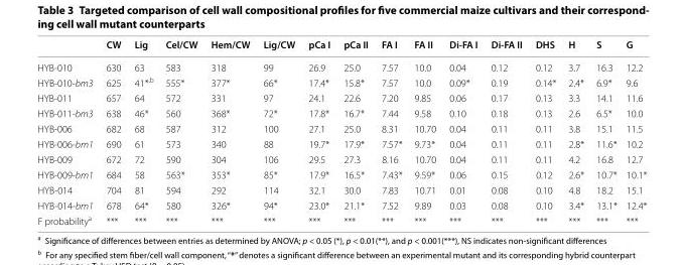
<table><thead><tr><td></td><td>CW</td><td>Lig</td><td>Cel/CW</td><td>Hem/CW</td><td>Lig/CW</td><td>pCa I</td><td>pCa II</td><td>FA I</td><td>FA II</td><td>Di-FA I</td><td>Di-FA II</td><td>DHS</td><td>H</td><td>S</td><td>G</td></tr></thead><tbody><tr><td>HYB‑010</td><td>630</td><td>63</td><td>583</td><td>318</td><td>99</td><td>26.9</td><td>25.0</td><td>7.57</td><td>10.0</td><td>0.04</td><td>0.12</td><td>0.12</td><td>3.7</td><td>16.3</td><td>12.2</td></tr><tr><td>HYB‑010‑bm3</td><td>625</td><td>41*<sup>,b</sup></td><td>555*</td><td>377*</td><td>66*</td><td>17.4*</td><td>15.8*</td><td>7.57</td><td>10.0</td><td>0.09*</td><td>0.19</td><td>0.14*</td><td>2.4*</td><td>6.9*</td><td>9.6</td></tr><tr><td>HYB‑011</td><td>657</td><td>64</td><td>572</td><td>331</td><td>97</td><td>24.1</td><td>22.6</td><td>7.20</td><td>9.85</td><td>0.06</td><td>0.17</td><td>0.13</td><td>3.3</td><td>14.1</td><td>11.6</td></tr><tr><td>HYB‑011‑bm3</td><td>638</td><td>46*</td><td>560</td><td>368*</td><td>72*</td><td>17.8*</td><td>16.7*</td><td>7.44</td><td>9.58</td><td>0.10</td><td>0.18</td><td>0.13</td><td>2.6</td><td>6.5*</td><td>10.0</td></tr><tr><td>HYB‑006</td><td>682</td><td>68</td><td>587</td><td>312</td><td>100</td><td>27.1</td><td>25.0</td><td>8.31</td><td>10.70</td><td>0.04</td><td>0.11</td><td>0.11</td><td>3.8</td><td>15.1</td><td>11.5</td></tr><tr><td>HYB‑006‑bm1</td><td>690</td><td>61</td><td>573</td><td>340</td><td>88</td><td>19.7*</td><td>17.9*</td><td>7.57*</td><td>9.73*</td><td>0.04</td><td>0.11</td><td>0.11</td><td>2.8*</td><td>11.6*</td><td>10.2</td></tr><tr><td>HYB‑009</td><td>672</td><td>72</td><td>590</td><td>304</td><td>106</td><td>29.5</td><td>27.3</td><td>8.16</td><td>10.70</td><td>0.04</td><td>0.11</td><td>0.11</td><td>4.2</td><td>16.8</td><td>12.7</td></tr><tr><td>HYB‑009‑bm1</td><td>684</td><td>58</td><td>563*</td><td>353*</td><td>85*</td><td>17.9*</td><td>16.5*</td><td>7.43*</td><td>9.59*</td><td>0.06</td><td>0.15</td><td>0.12</td><td>2.6*</td><td>10.7*</td><td>10.1*</td></tr><tr><td>HYB‑014</td><td>704</td><td>81</td><td>594</td><td>292</td><td>114</td><td>32.1</td><td>30.0</td><td>7.83</td><td>10.71</td><td>0.01</td><td>0.08</td><td>0.10</td><td>4.8</td><td>18.2</td><td>15.1</td></tr><tr><td>HYB‑014‑bm1</td><td>678</td><td>64*</td><td>580</td><td>326*</td><td>94*</td><td>23.0*</td><td>21.1*</td><td>7.52</td><td>9.89</td><td>0.03</td><td>0.08</td><td>0.10</td><td>3.4*</td><td>13.1*</td><td>12.4*</td></tr><tr><td>F probability<sup>a</sup></td><td>***</td><td>***</td><td>***</td><td>***</td><td>***</td><td>***</td><td>***</td><td>***</td><td>***</td><td>***</td><td>***</td><td>***</td><td>***</td><td>***</td><td>***</td></tr></tbody></table>